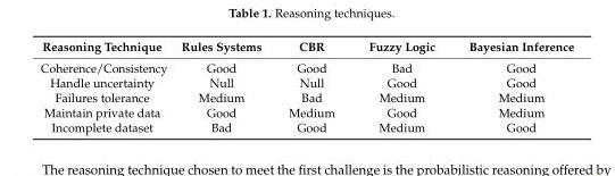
<table><thead><tr><td>Reasoning Technique</td><td>Rules Systems</td><td>CBR</td><td>Fuzzy Logic</td><td>Bayesian Inference</td></tr></thead><tbody><tr><td>Coherence/Consistency</td><td>Good</td><td>Good</td><td>Bad</td><td>Good</td></tr><tr><td>Handle uncertainty</td><td>Null</td><td>Null</td><td>Good</td><td>Good</td></tr><tr><td>Failures tolerance</td><td>Medium</td><td>Bad</td><td>Medium</td><td>Medium</td></tr><tr><td>Maintain private data</td><td>Good</td><td>Medium</td><td>Good</td><td>Medium</td></tr><tr><td>Incomplete dataset</td><td>Bad</td><td>Good</td><td>Medium</td><td>Good</td></tr></tbody></table>